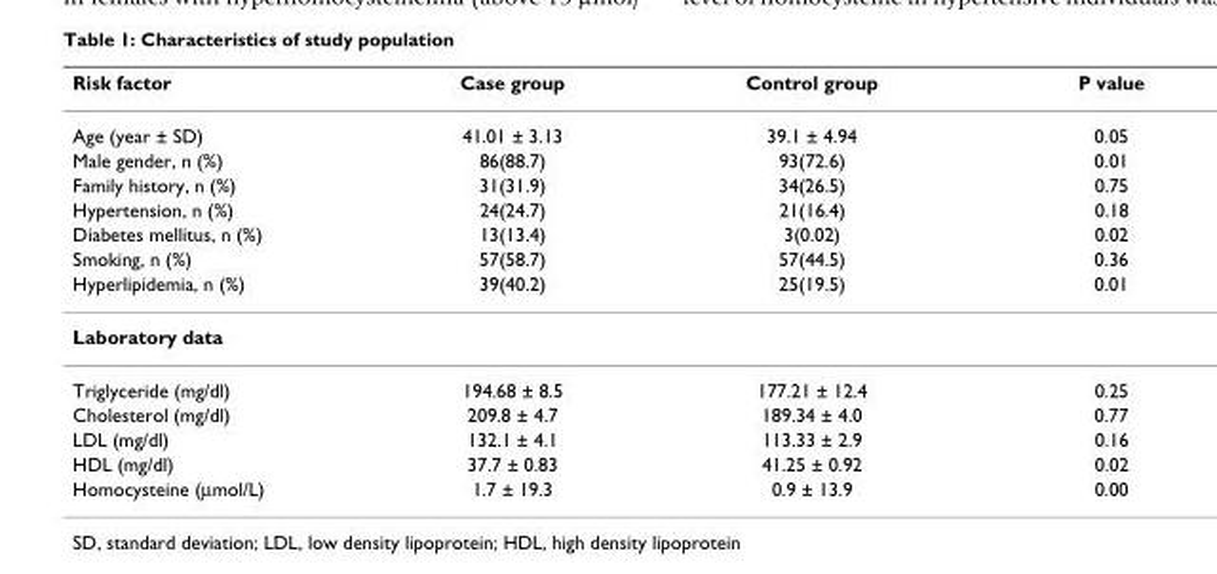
<table><thead><tr><td>Risk factor</td><td>Case group</td><td>Control group</td><td>P value</td></tr></thead><tbody><tr><td>Age (year ± SD)</td><td>41.01 ± 3.13</td><td>39.1 ± 4.94</td><td>0.05</td></tr><tr><td>Male gender, n (%)</td><td>86(88.7)</td><td>93(72.6)</td><td>0.01</td></tr><tr><td>Family history, n (%)</td><td>31(31.9)</td><td>34(26.5)</td><td>0.75</td></tr><tr><td>Hypertension, n (%)</td><td>24(24.7)</td><td>21(16.4)</td><td>0.18</td></tr><tr><td>Diabetes mellitus, n (%)</td><td>13(13.4)</td><td>3(0.02)</td><td>0.02</td></tr><tr><td>Smoking, n (%)</td><td>57(58.7)</td><td>57(44.5)</td><td>0.36</td></tr><tr><td>Hyperlipidemia, n (%)</td><td>39(40.2)</td><td>25(19.5)</td><td>0.01</td></tr><tr><td colspan="4">Laboratory data</td></tr><tr><td>Triglyceride (mg/dl)</td><td>194.68 ± 8.5</td><td>177.21 ± 12.4</td><td>0.25</td></tr><tr><td>Cholesterol (mg/dl)</td><td>209.8 ± 4.7</td><td>189.34 ± 4.0</td><td>0.77</td></tr><tr><td>LDL (mg/dl)</td><td>132.1 ± 4.1</td><td>113.33 ± 2.9</td><td>0.16</td></tr><tr><td>HDL (mg/dl)</td><td>37.7 ± 0.83</td><td>41.25 ± 0.92</td><td>0.02</td></tr><tr><td>Homocysteine (μmol/L)</td><td>1.7 ± 19.3</td><td>0.9 ± 13.9</td><td>0.00</td></tr></tbody></table>